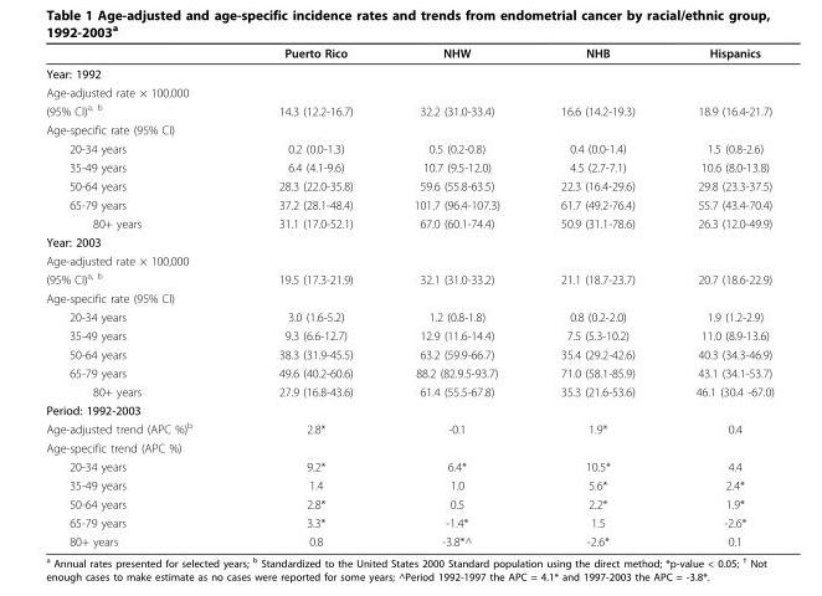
<table><thead><tr><td></td><td>Puerto Rico</td><td>NHW</td><td>NHB</td><td>Hispanics</td></tr></thead><tbody><tr><td colspan="5">Year: 1992</td></tr><tr><td colspan="5">Age-adjusted rate × 100,000</td></tr><tr><td>(95% CI)<sup>a, b</sup></td><td>14.3 (12.2-16.7)</td><td>32.2 (31.0-33.4)</td><td>16.6 (14.2-19.3)</td><td>18.9 (16.4-21.7)</td></tr><tr><td colspan="5">Age-specific rate (95% CI)</td></tr><tr><td>20-34 years</td><td>0.2 (0.0-1.3)</td><td>0.5 (0.2-0.8)</td><td>0.4 (0.0-1.4)</td><td>1.5 (0.8-2.6)</td></tr><tr><td>35-49 years</td><td>6.4 (4.1-9.6)</td><td>10.7 (9.5-12.0)</td><td>4.5 (2.7-7.1)</td><td>10.6 (8.0-13.8)</td></tr><tr><td>50-64 years</td><td>28.3 (22.0-35.8)</td><td>59.6 (55.8-63.5)</td><td>22.3 (16.4-29.6)</td><td>29.8 (23.3-37.5)</td></tr><tr><td>65-79 years</td><td>37.2 (28.1-48.4)</td><td>101.7 (96.4-107.3)</td><td>61.7 (49.2-76.4)</td><td>55.7 (43.4-70.4)</td></tr><tr><td>80+ years</td><td>31.1 (17.0-52.1)</td><td>67.0 (60.1-74.4)</td><td>50.9 (31.1-78.6)</td><td>26.3 (12.0-49.9)</td></tr><tr><td colspan="5">Year: 2003</td></tr><tr><td colspan="5">Age-adjusted rate × 100,000</td></tr><tr><td>(95% CI)<sup>a, b</sup></td><td>19.5 (17.3-21.9)</td><td>32.1 (31.0-33.2)</td><td>21.1 (18.7-23.7)</td><td>20.7 (18.6-22.9)</td></tr><tr><td colspan="5">Age-specific rate (95% CI)</td></tr><tr><td>20-34 years</td><td>3.0 (1.6-5.2)</td><td>1.2 (0.8-1.8)</td><td>0.8 (0.2-2.0)</td><td>1.9 (1.2-2.9)</td></tr><tr><td>35-49 years</td><td>9.3 (6.6-12.7)</td><td>12.9 (11.6-14.4)</td><td>7.5 (5.3-10.2)</td><td>11.0 (8.9-13.6)</td></tr><tr><td>50-64 years</td><td>38.3 (31.9-45.5)</td><td>63.2 (59.9-66.7)</td><td>35.4 (29.2-42.6)</td><td>40.3 (34.3-46.9)</td></tr><tr><td>65-79 years</td><td>49.6 (40.2-60.6)</td><td>88.2 (82.9.5-93.7)</td><td>71.0 (58.1-85.9)</td><td>43.1 (34.1-53.7)</td></tr><tr><td>80+ years</td><td>27.9 (16.8-43.6)</td><td>61.4 (55.5-67.8)</td><td>35.3 (21.6-53.6)</td><td>46.1 (30.4 -67.0)</td></tr><tr><td colspan="5">Period: 1992-2003</td></tr><tr><td>Age-adjusted trend (APC %)<sup>b</sup></td><td>2.8*</td><td>-0.1</td><td>1.9*</td><td>0.4</td></tr><tr><td colspan="5">Age-specific trend (APC %)</td></tr><tr><td>20-34 years</td><td>9.2*</td><td>6.4*</td><td>10.5*</td><td>4.4</td></tr><tr><td>35-49 years</td><td>1.4</td><td>1.0</td><td>5.6*</td><td>2.4*</td></tr><tr><td>50-64 years</td><td>2.8*</td><td>0.5</td><td>2.2*</td><td>1.9*</td></tr><tr><td>65-79 years</td><td>3.3*</td><td>-1.4*</td><td>1.5</td><td>-2.6*</td></tr><tr><td>80+ years</td><td>0.8</td><td>-3.8*^</td><td>-2.6*</td><td>0.1</td></tr></tbody></table>